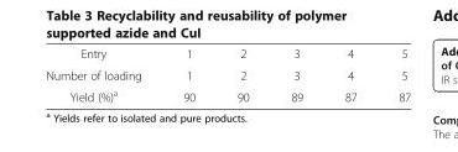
<table><tbody><tr><td>Entry</td><td>1</td><td>2</td><td>3</td><td>4</td><td>5</td></tr><tr><td>Number of loading</td><td>1</td><td>2</td><td>3</td><td>4</td><td>5</td></tr><tr><td>Yield (%)<sup>a</sup></td><td>90</td><td>90</td><td>89</td><td>87</td><td>87</td></tr></tbody></table>